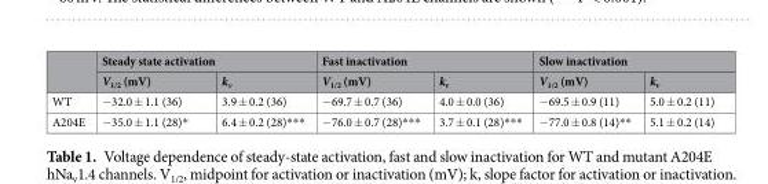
<table><thead><tr><td rowspan="2"></td><td colspan="2">Steady state activation</td><td colspan="2">Fast inactivation</td><td colspan="2">Slow inactivation</td></tr><tr><td>V<sub>1/2</sub> (mV)</td><td>k<sub>v</sub></td><td>V<sub>1/2</sub> (mV)</td><td>k<sub>v</sub></td><td>V<sub>1/2</sub> (mV)</td><td>k<sub>v</sub></td></tr></thead><tbody><tr><td>WT</td><td>−32.0 ± 1.1 (36)</td><td>3.9 ± 0.2 (36)</td><td>−69.7 ± 0.7 (36)</td><td>4.0 ± 0.0 (36)</td><td>−69.5 ± 0.9 (11)</td><td>5.0 ± 0.2 (11)</td></tr><tr><td>A204E</td><td>−35.0 ± 1.1 (28)*</td><td>6.4 ± 0.2 (28)***</td><td>−76.0 ± 0.7 (28)***</td><td>3.7 ± 0.1 (28)***</td><td>−77.0 ± 0.8 (14)**</td><td>5.1 ± 0.2 (14)</td></tr></tbody></table>